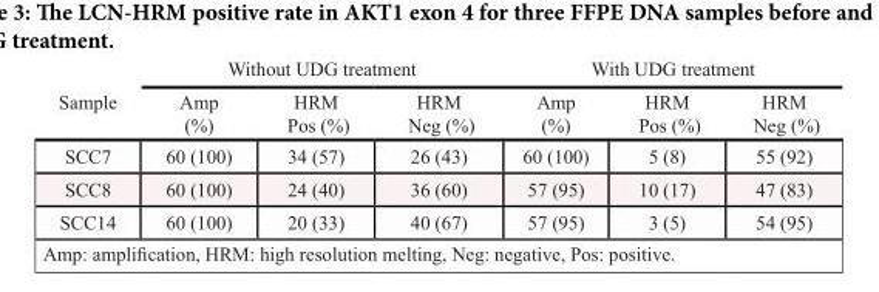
<table><thead><tr><td rowspan="2">Sample</td><td colspan="3">Without UDG treatment</td><td colspan="3">With UDG treatment</td></tr><tr><td>Amp (%)</td><td>HRM Pos (%)</td><td>HRM Neg (%)</td><td>Amp (%)</td><td>HRM Pos (%)</td><td>HRM Neg (%)</td></tr></thead><tbody><tr><td>SCC7</td><td>60 (100)</td><td>34 (57)</td><td>26 (43)</td><td>60 (100)</td><td>5 (8)</td><td>55 (92)</td></tr><tr><td>SCC8</td><td>60 (100)</td><td>24 (40)</td><td>36 (60)</td><td>57 (95)</td><td>10 (17)</td><td>47 (83)</td></tr><tr><td>SCC14</td><td>60 (100)</td><td>20 (33)</td><td>40 (67)</td><td>57 (95)</td><td>3 (5)</td><td>54 (95)</td></tr></tbody></table>